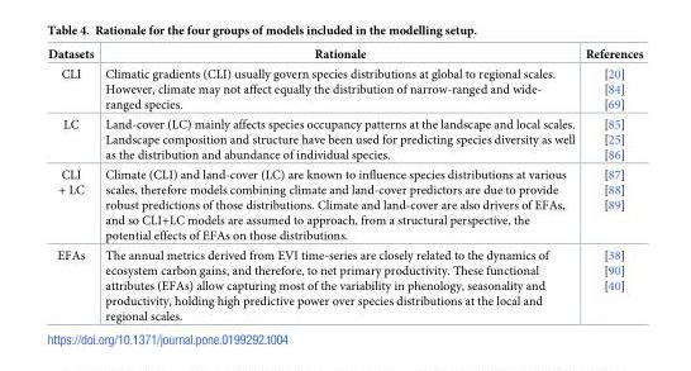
<table><thead><tr><td>Datasets</td><td>Rationale</td><td>References</td></tr></thead><tbody><tr><td>CLI</td><td>Climatic gradients (CLI) usually govern species distributions at global to regional scales. However, climate may not affect equally the distribution of narrow-ranged and wide- ranged species.</td><td>[20] [84] [69]</td></tr><tr><td>LC</td><td>Land-cover (LC) mainly affects species occupancy patterns at the landscape and local scales. Landscape composition and structure have been used for predicting species diversity as well as the distribution and abundance of individual species.</td><td>[85] [25] [86]</td></tr><tr><td>CLI + LC</td><td>Climate (CLI) and land-cover (LC) are known to influence species distributions at various scales, therefore models combining climate and land-cover predictors are due to provide robust predictions of those distributions. Climate and land-cover are also drivers of EFAs, and so CLI+LC models are assumed to approach, from a structural perspective, the potential effects of EFAs on those distributions.</td><td>[87] [88] [89]</td></tr><tr><td>EFAs</td><td>The annual metrics derived from EVI time-series are closely related to the dynamics of ecosystem carbon gains, and therefore, to net primary productivity. These functional attributes (EFAs) allow capturing most of the variability in phenology, seasonality and productivity, holding high predictive power over species distributions at the local and regional scales.</td><td>[38] [90] [40]</td></tr></tbody></table>